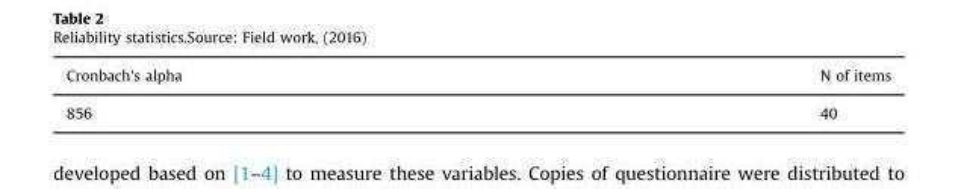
<table><thead><tr><td>Cronbach&#x27;s alpha</td><td>N of items</td></tr></thead><tbody><tr><td>856</td><td>40</td></tr></tbody></table>